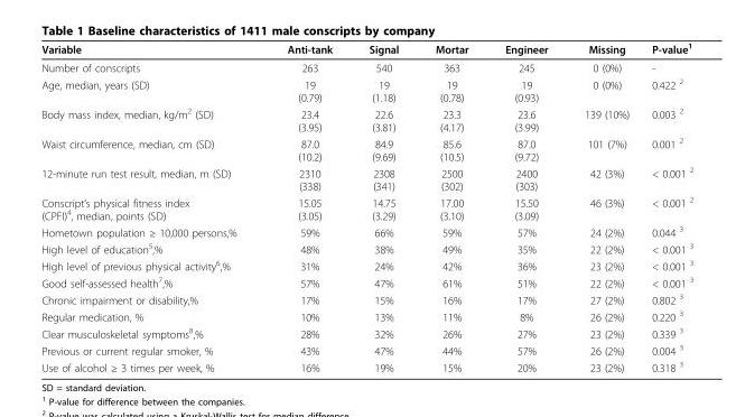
<table><thead><tr><td>Variable</td><td>Anti-tank</td><td>Signal</td><td>Mortar</td><td>Engineer</td><td>Missing</td><td>P-value<sup>1</sup></td></tr></thead><tbody><tr><td>Number of conscripts</td><td>263</td><td>540</td><td>363</td><td>245</td><td>0 (0%)</td><td>-</td></tr><tr><td>Age, median, years (SD)</td><td>19 (0.79)</td><td>19 (1.18)</td><td>19 (0.78)</td><td>19 (0.93)</td><td>0 (0%)</td><td>0.422 <sup>2</sup></td></tr><tr><td>Body mass index, median, kg/m<sup>2</sup> (SD)</td><td>23.4 (3.95)</td><td>22.6 (3.81)</td><td>23.3 (4.17)</td><td>23.6 (3.99)</td><td>139 (10%)</td><td>0.003 <sup>2</sup></td></tr><tr><td>Waist circumference, median, cm (SD)</td><td>87.0 (10.2)</td><td>84.9 (9.69)</td><td>85.6 (10.5)</td><td>87.0 (9.72)</td><td>101 (7%)</td><td>0.001 <sup>2</sup></td></tr><tr><td>12-minute run test result, median, m (SD)</td><td>2310 (338)</td><td>2308 (341)</td><td>2500 (302)</td><td>2400 (303)</td><td>42 (3%)</td><td>&lt; 0.001 <sup>2</sup></td></tr><tr><td>Conscript’s physical fitness index (CPFI)<sup>4</sup>, median, points (SD)</td><td>15.05 (3.05)</td><td>14.75 (3.29)</td><td>17.00 (3.10)</td><td>15.50 (3.09)</td><td>46 (3%)</td><td>&lt; 0.001 <sup>2</sup></td></tr><tr><td>Hometown population ≥ 10,000 persons,%</td><td>59%</td><td>66%</td><td>59%</td><td>57%</td><td>24 (2%)</td><td>0.044 <sup>3</sup></td></tr><tr><td>High level of education<sup>5</sup>,%</td><td>48%</td><td>38%</td><td>49%</td><td>35%</td><td>22 (2%)</td><td>&lt; 0.001 <sup>3</sup></td></tr><tr><td>High level of previous physical activity<sup>6</sup>,%</td><td>31%</td><td>24%</td><td>42%</td><td>36%</td><td>23 (2%)</td><td>&lt; 0.001 <sup>3</sup></td></tr><tr><td>Good self-assessed health<sup>7</sup>,%</td><td>57%</td><td>47%</td><td>61%</td><td>51%</td><td>22 (2%)</td><td>&lt; 0.001 <sup>3</sup></td></tr><tr><td>Chronic impairment or disability,%</td><td>17%</td><td>15%</td><td>16%</td><td>17%</td><td>27 (2%)</td><td>0.802 <sup>3</sup></td></tr><tr><td>Regular medication, %</td><td>10%</td><td>13%</td><td>11%</td><td>8%</td><td>26 (2%)</td><td>0.220 <sup>3</sup></td></tr><tr><td>Clear musculoskeletal symptoms<sup>8</sup>,%</td><td>28%</td><td>32%</td><td>26%</td><td>27%</td><td>23 (2%)</td><td>0.339 <sup>3</sup></td></tr><tr><td>Previous or current regular smoker, %</td><td>43%</td><td>47%</td><td>44%</td><td>57%</td><td>26 (2%)</td><td>0.004 <sup>3</sup></td></tr><tr><td>Use of alcohol ≥ 3 times per week, %</td><td>16%</td><td>19%</td><td>15%</td><td>20%</td><td>23 (2%)</td><td>0.318 <sup>3</sup></td></tr></tbody></table>